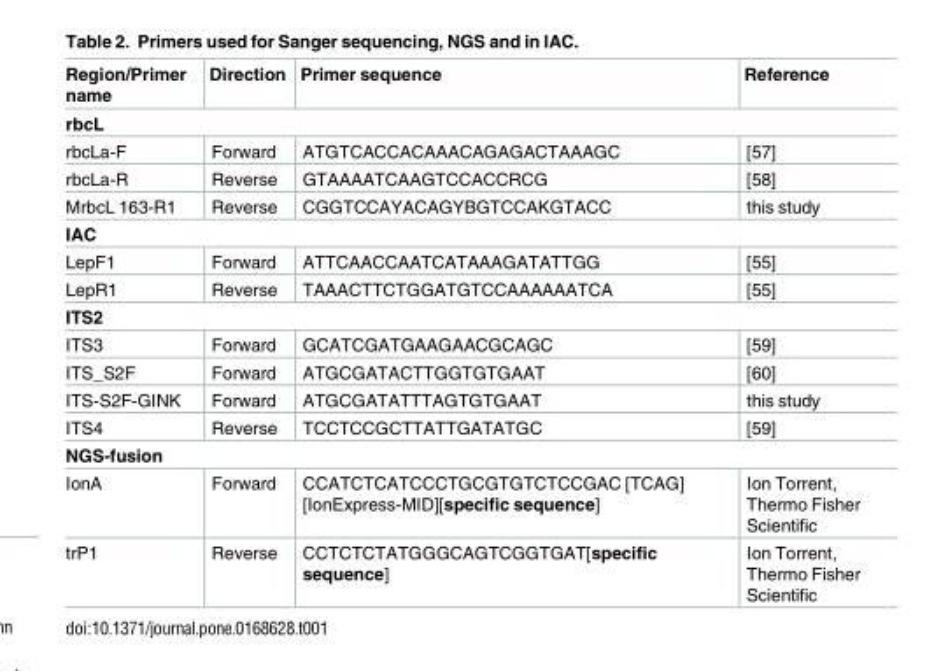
<table><thead><tr><td>Region/Primer name</td><td>Direction</td><td>Primer sequence</td><td>Reference</td></tr></thead><tbody><tr><td colspan="4">rbcL</td></tr><tr><td>rbcLa-F</td><td>Forward</td><td>ATGTCACCACAAACAGAGACTAAAGC</td><td>[57]</td></tr><tr><td>rbcLa-R</td><td>Reverse</td><td>GTAAAATCAAGTCCACCRCG</td><td>[58]</td></tr><tr><td>MrbcL 163-R1</td><td>Reverse</td><td>CGGTCCAYACAGYBGTCCAKGTACC</td><td>this study</td></tr><tr><td colspan="4">IAC</td></tr><tr><td>LepF1</td><td>Forward</td><td>ATTCAACCAATCATAAAGATATTGG</td><td>[55]</td></tr><tr><td>LepR1</td><td>Reverse</td><td>TAAACTTCTGGATGTCCAAAAAATCA</td><td>[55]</td></tr><tr><td colspan="4">ITS2</td></tr><tr><td>ITS3</td><td>Forward</td><td>GCATCGATGAAGAACGCAGC</td><td>[59]</td></tr><tr><td>ITS_S2F</td><td>Forward</td><td>ATGCGATACTTGGTGTGAAT</td><td>[60]</td></tr><tr><td>ITS-S2F-GINK</td><td>Forward</td><td>ATGCGATATTTAGTGTGAAT</td><td>this study</td></tr><tr><td>ITS4</td><td>Reverse</td><td>TCCTCCGCTTATTGATATGC</td><td>[59]</td></tr><tr><td colspan="4">NGS-fusion</td></tr><tr><td>IonA</td><td>Forward</td><td>CCATCTCATCCCTGCGTGTCTCCGAC [TCAG] [IonExpress-MID][specific sequence]</td><td>Ion Torrent, Thermo Fisher Scientific</td></tr><tr><td>trP1</td><td>Reverse</td><td>CCTCTCTATGGGCAGTCGGTGAT[specific sequence]</td><td>Ion Torrent, Thermo Fisher Scientific</td></tr></tbody></table>